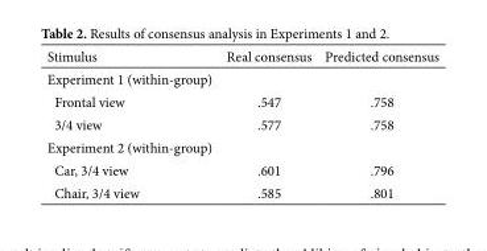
<table><thead><tr><td>Stimulus</td><td>Real consensus</td><td>Predicted consensus</td></tr></thead><tbody><tr><td colspan="3">Experiment 1 (within-group)</td></tr><tr><td>Frontal view</td><td>.547</td><td>.758</td></tr><tr><td>3/4 view</td><td>.577</td><td>.758</td></tr><tr><td colspan="3">Experiment 2 (within-group)</td></tr><tr><td>Car, 3/4 view</td><td>.601</td><td>.796</td></tr><tr><td>Chair, 3/4 view</td><td>.585</td><td>.801</td></tr></tbody></table>